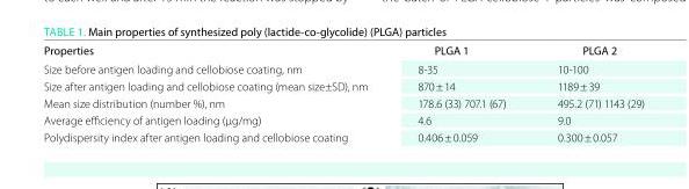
<table><thead><tr><td>Properties</td><td>PLGA 1</td><td>PLGA 2</td></tr></thead><tbody><tr><td>Size before antigen loading and cellobiose coating, nm</td><td>8-35</td><td>10-100</td></tr><tr><td>Size after antigen loading and cellobiose coating (mean size±SD), nm</td><td>870 ± 14</td><td>1189 ± 39</td></tr><tr><td>Mean size distribution (number %), nm</td><td>178.6 (33) 707.1 (67)</td><td>495.2 (71) 1143 (29)</td></tr><tr><td>Average efficiency of antigen loading (μg/mg)</td><td>4.6</td><td>9.0</td></tr><tr><td>Polydispersity index after antigen loading and cellobiose coating</td><td>0.406 ± 0.059</td><td>0.300 ± 0.057</td></tr></tbody></table>